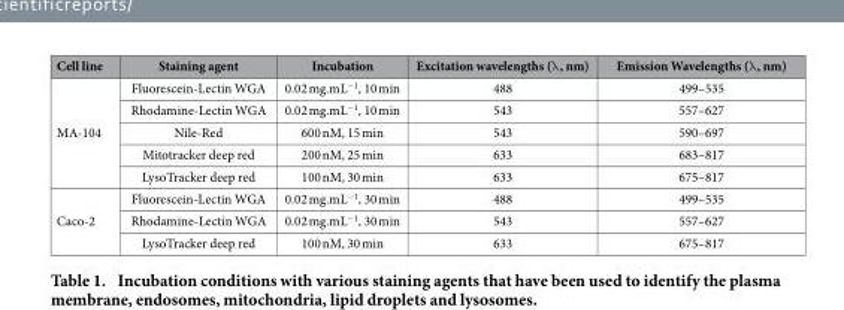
<table><thead><tr><td>Cell line</td><td>Staining agent</td><td>Incubation</td><td>Excitation wavelengths (λ , nm)</td><td>Emission Wavelengths (λ , nm)</td></tr></thead><tbody><tr><td rowspan="5">MA-104</td><td>Fluorescein-Lectin WGA</td><td>0.02 mg.mL<sup>−1</sup>, 10 min</td><td>488</td><td>499–535</td></tr><tr><td>Rhodamine-Lectin WGA</td><td>0.02 mg.mL<sup>−1</sup>, 10 min</td><td>543</td><td>557–627</td></tr><tr><td>Nile-Red</td><td>600 nM, 15 min</td><td>543</td><td>590–697</td></tr><tr><td>Mitotracker deep red</td><td>200 nM, 25 min</td><td>633</td><td>683–817</td></tr><tr><td>LysoTracker deep red</td><td>100 nM, 30 min</td><td>633</td><td>675–817</td></tr><tr><td rowspan="3">Caco-2</td><td>Fluorescein-Lectin WGA</td><td>0.02 mg.mL<sup>−1</sup>, 30 min</td><td>488</td><td>499–535</td></tr><tr><td>Rhodamine-Lectin WGA</td><td>0.02 mg.mL<sup>−1</sup>, 30 min</td><td>543</td><td>557–627</td></tr><tr><td>LysoTracker deep red</td><td>100 nM, 30 min</td><td>633</td><td>675–817</td></tr></tbody></table>